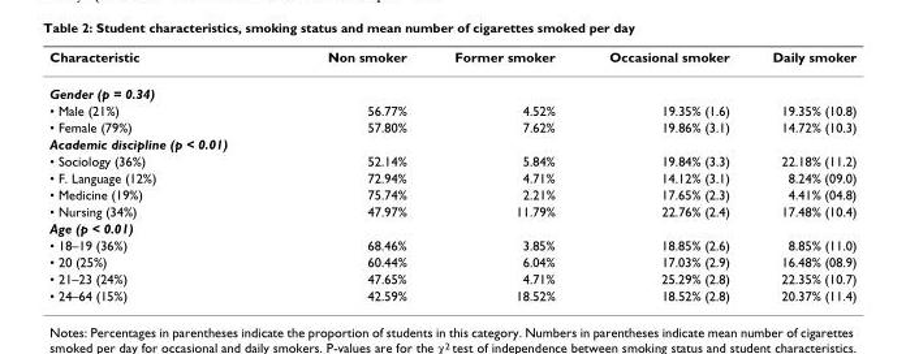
<table><thead><tr><td>Characteristic</td><td>Non smoker</td><td>Former smoker</td><td>Occasional smoker</td><td>Daily smoker</td></tr></thead><tbody><tr><td colspan="5">Gender (p = 0.34)</td></tr><tr><td>• Male (21%)</td><td>56.77%</td><td>4.52%</td><td>19.35% (1.6)</td><td>19.35% (10.8)</td></tr><tr><td>• Female (79%)</td><td>57.80%</td><td>7.62%</td><td>19.86% (3.1)</td><td>14.72% (10.3)</td></tr><tr><td colspan="5">Academic discipline (p &lt; 0.01)</td></tr><tr><td>• Sociology (36%)</td><td>52.14%</td><td>5.84%</td><td>19.84% (3.3)</td><td>22.18% (11.2)</td></tr><tr><td>• F. Language (12%)</td><td>72.94%</td><td>4.71%</td><td>14.12% (3.1)</td><td>8.24% (09.0)</td></tr><tr><td>• Medicine (19%)</td><td>75.74%</td><td>2.21%</td><td>17.65% (2.3)</td><td>4.41% (04.8)</td></tr><tr><td>• Nursing (34%)</td><td>47.97%</td><td>11.79%</td><td>22.76% (2.4)</td><td>17.48% (10.4)</td></tr><tr><td colspan="5">Age (p &lt; 0.01)</td></tr><tr><td>• 18–19 (36%)</td><td>68.46%</td><td>3.85%</td><td>18.85% (2.6)</td><td>8.85% (11.0)</td></tr><tr><td>• 20 (25%)</td><td>60.44%</td><td>6.04%</td><td>17.03% (2.9)</td><td>16.48% (08.9)</td></tr><tr><td>• 21–23 (24%)</td><td>47.65%</td><td>4.71%</td><td>25.29% (2.8)</td><td>22.35% (10.7)</td></tr><tr><td>• 24–64 (15%)</td><td>42.59%</td><td>18.52%</td><td>18.52% (2.8)</td><td>20.37% (11.4)</td></tr></tbody></table>